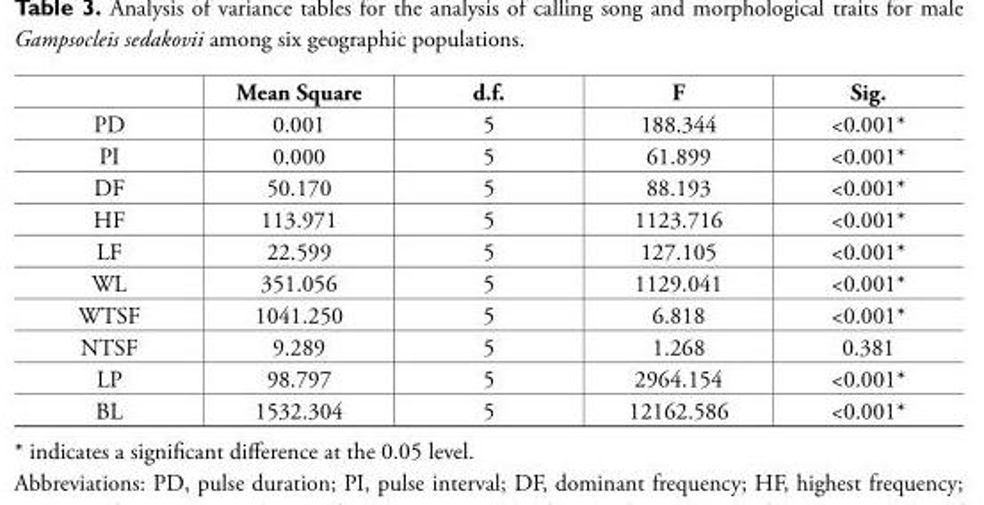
<table><thead><tr><td></td><td>Mean Square</td><td>d.f.</td><td>F</td><td>Sig.</td></tr></thead><tbody><tr><td>PD</td><td>0.001</td><td>5</td><td>188.344</td><td>&lt;0.001*</td></tr><tr><td>PI</td><td>0.000</td><td>5</td><td>61.899</td><td>&lt;0.001*</td></tr><tr><td>DF</td><td>50.170</td><td>5</td><td>88.193</td><td>&lt;0.001*</td></tr><tr><td>HF</td><td>113.971</td><td>5</td><td>1123.716</td><td>&lt;0.001*</td></tr><tr><td>LF</td><td>22.599</td><td>5</td><td>127.105</td><td>&lt;0.001*</td></tr><tr><td>WL</td><td>351.056</td><td>5</td><td>1129.041</td><td>&lt;0.001*</td></tr><tr><td>WTSF</td><td>1041.250</td><td>5</td><td>6.818</td><td>&lt;0.001*</td></tr><tr><td>NTSF</td><td>9.289</td><td>5</td><td>1.268</td><td>0.381</td></tr><tr><td>LP</td><td>98.797</td><td>5</td><td>2964.154</td><td>&lt;0.001*</td></tr><tr><td>BL</td><td>1532.304</td><td>5</td><td>12162.586</td><td>&lt;0.001*</td></tr></tbody></table>